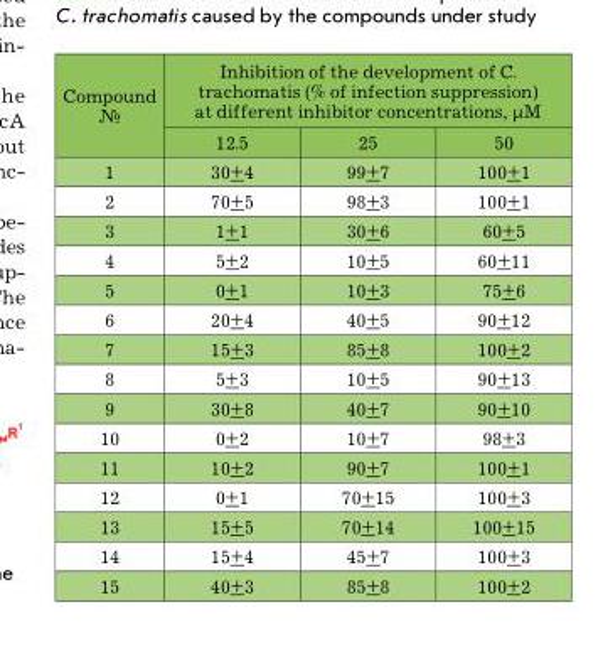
<table><thead><tr><td rowspan="2">compound №</td><td colspan="3">Inhibition of the development of c. trachomatis (% of infection suppression) at different inhibitor concentrations, µM</td></tr><tr><td>12.5</td><td>25</td><td>50</td></tr></thead><tbody><tr><td>1</td><td>30+4</td><td>99+7</td><td>100+1</td></tr><tr><td>2</td><td>70+5</td><td>98+3</td><td>100+1</td></tr><tr><td>3</td><td>1+1</td><td>30+6</td><td>60+5</td></tr><tr><td>4</td><td>5+2</td><td>10+5</td><td>60+11</td></tr><tr><td>5</td><td>0+1</td><td>10+3</td><td>75+6</td></tr><tr><td>6</td><td>20+4</td><td>40+5</td><td>90+12</td></tr><tr><td>7</td><td>15+3</td><td>85+8</td><td>100+2</td></tr><tr><td>8</td><td>5+3</td><td>10+5</td><td>90+13</td></tr><tr><td>9</td><td>30+8</td><td>40+7</td><td>90+10</td></tr><tr><td>10</td><td>0+2</td><td>10+7</td><td>98+3</td></tr><tr><td>11</td><td>10+2</td><td>90+7</td><td>100+1</td></tr><tr><td>12</td><td>0+1</td><td>70+15</td><td>100+3</td></tr><tr><td>13</td><td>15+5</td><td>70+14</td><td>100+15</td></tr><tr><td>14</td><td>15+4</td><td>45+7</td><td>100+3</td></tr><tr><td>15</td><td>40+3</td><td>85+8</td><td>100+2</td></tr></tbody></table>